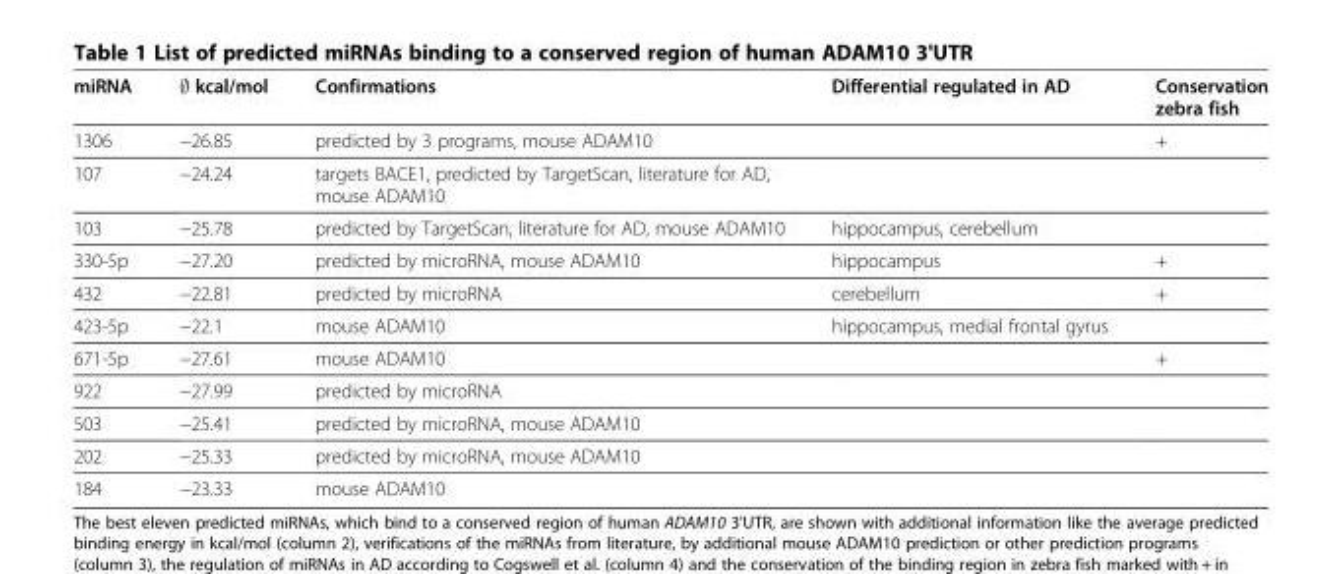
<table><thead><tr><td>miRNA</td><td>∅ kcal/mol</td><td>Confirmations</td><td>Differential regulated in AD</td><td>Conservation zebra fish</td></tr></thead><tbody><tr><td>1306</td><td>−26.85</td><td>predicted by 3 programs, mouse ADAM10</td><td></td><td>+</td></tr><tr><td>107</td><td>−24.24</td><td>targets BACE1, predicted by TargetScan, literature for AD, mouse ADAM10</td><td></td><td></td></tr><tr><td>103</td><td>−25.78</td><td>predicted by TargetScan, literature for AD, mouse ADAM10</td><td>hippocampus, cerebellum</td><td></td></tr><tr><td>330-5p</td><td>−27.20</td><td>predicted by microRNA, mouse ADAM10</td><td>hippocampus</td><td>+</td></tr><tr><td>432</td><td>−22.81</td><td>predicted by microRNA</td><td>cerebellum</td><td>+</td></tr><tr><td>423-5p</td><td>−22.1</td><td>mouse ADAM10</td><td>hippocampus, medial frontal gyrus</td><td></td></tr><tr><td>671-5p</td><td>−27.61</td><td>mouse ADAM10</td><td></td><td>+</td></tr><tr><td>922</td><td>−27.99</td><td>predicted by microRNA</td><td></td><td></td></tr><tr><td>503</td><td>−25.41</td><td>predicted by microRNA, mouse ADAM10</td><td></td><td></td></tr><tr><td>202</td><td>−25.33</td><td>predicted by microRNA, mouse ADAM10</td><td></td><td></td></tr><tr><td>184</td><td>−23.33</td><td>mouse ADAM10</td><td></td><td></td></tr></tbody></table>